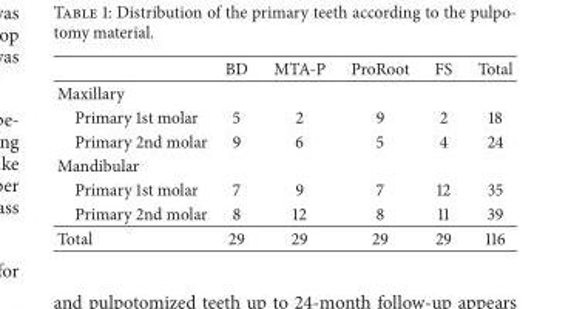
<table><thead><tr><td></td><td>BD</td><td>MTA-P</td><td>ProRoot</td><td>FS</td><td>Total</td></tr></thead><tbody><tr><td colspan="6">Maxillary</td></tr><tr><td>Primary 1st molar</td><td>5</td><td>2</td><td>9</td><td>2</td><td>18</td></tr><tr><td>Primary 2nd molar</td><td>9</td><td>6</td><td>5</td><td>4</td><td>24</td></tr><tr><td colspan="6">Mandibular</td></tr><tr><td>Primary 1st molar</td><td>7</td><td>9</td><td>7</td><td>12</td><td>35</td></tr><tr><td>Primary 2nd molar</td><td>8</td><td>12</td><td>8</td><td>11</td><td>39</td></tr><tr><td>Total</td><td>29</td><td>29</td><td>29</td><td>29</td><td>116</td></tr></tbody></table>